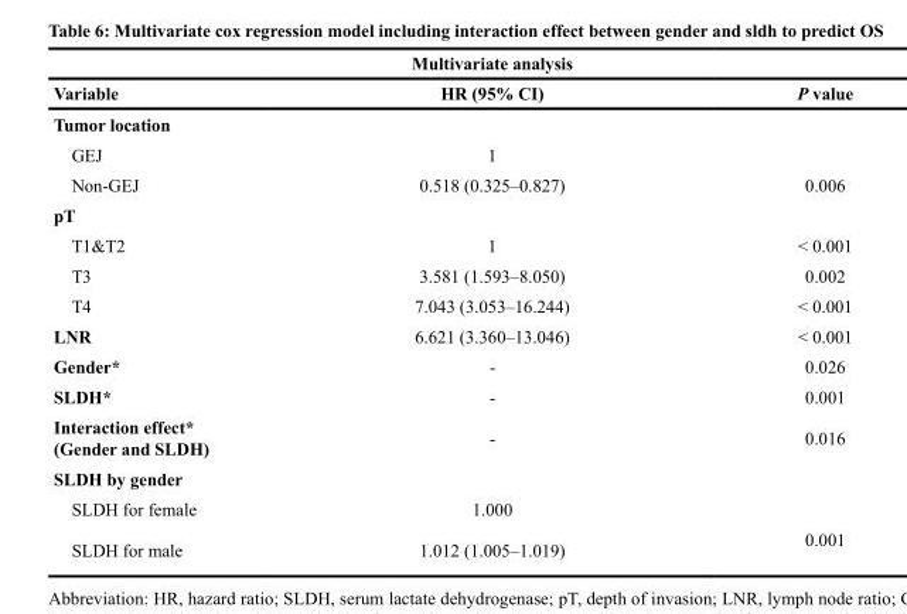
<table><thead><tr><td colspan="3">Multivariate analysis</td></tr><tr><td>Variable</td><td>HR (95% CI)</td><td>P value</td></tr></thead><tbody><tr><td colspan="3">Tumor location</td></tr><tr><td>GEJ</td><td>1</td><td></td></tr><tr><td>Non-GEJ</td><td>0.518 (0.325–0.827)</td><td>0.006</td></tr><tr><td colspan="3">pT</td></tr><tr><td>T1&amp;T2</td><td>1</td><td>&lt; 0.001</td></tr><tr><td>T3</td><td>3.581 (1.593–8.050)</td><td>0.002</td></tr><tr><td>T4</td><td>7.043 (3.053–16.244)</td><td>&lt; 0.001</td></tr><tr><td>LNR</td><td>6.621 (3.360–13.046)</td><td>&lt; 0.001</td></tr><tr><td>Gender*</td><td>-</td><td>0.026</td></tr><tr><td>SLDH*</td><td>-</td><td>0.001</td></tr><tr><td>Interaction effect* (Gender and SLDH)</td><td>-</td><td>0.016</td></tr><tr><td colspan="3">SLDH by gender</td></tr><tr><td>SLDH for female</td><td>1.000</td><td></td></tr><tr><td>SLDH for male</td><td>1.012 (1.005–1.019)</td><td>0.001</td></tr></tbody></table>